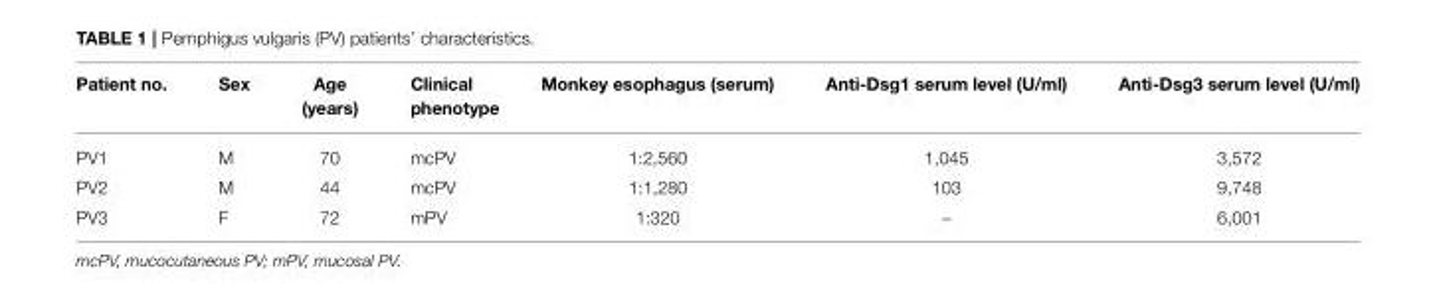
<table><thead><tr><td>Patient no.</td><td>Sex</td><td>Age (years)</td><td>Clinical phenotype</td><td>Monkey esophagus (serum)</td><td>Anti-Dsg1 serum level (U/ml)</td><td>Anti-Dsg3 serum level (U/ml)</td></tr></thead><tbody><tr><td>PV1</td><td>M</td><td>70</td><td>mcPV</td><td>1:2,560</td><td>1,045</td><td>3,572</td></tr><tr><td>PV2</td><td>M</td><td>44</td><td>mcPV</td><td>1:1,280</td><td>103</td><td>9,748</td></tr><tr><td>PV3</td><td>F</td><td>72</td><td>mPV</td><td>1:320</td><td>–</td><td>6,001</td></tr></tbody></table>